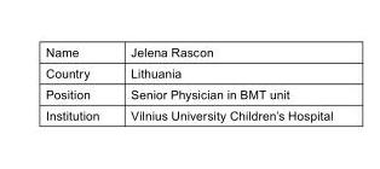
<table><tbody><tr><td>Name</td><td>Jelena Rascon</td></tr><tr><td>Country</td><td>Lithuania</td></tr><tr><td>Position</td><td>Senior Physician in BMT unit</td></tr><tr><td>Institution</td><td>Vilnius University Children’s Hospital</td></tr></tbody></table>